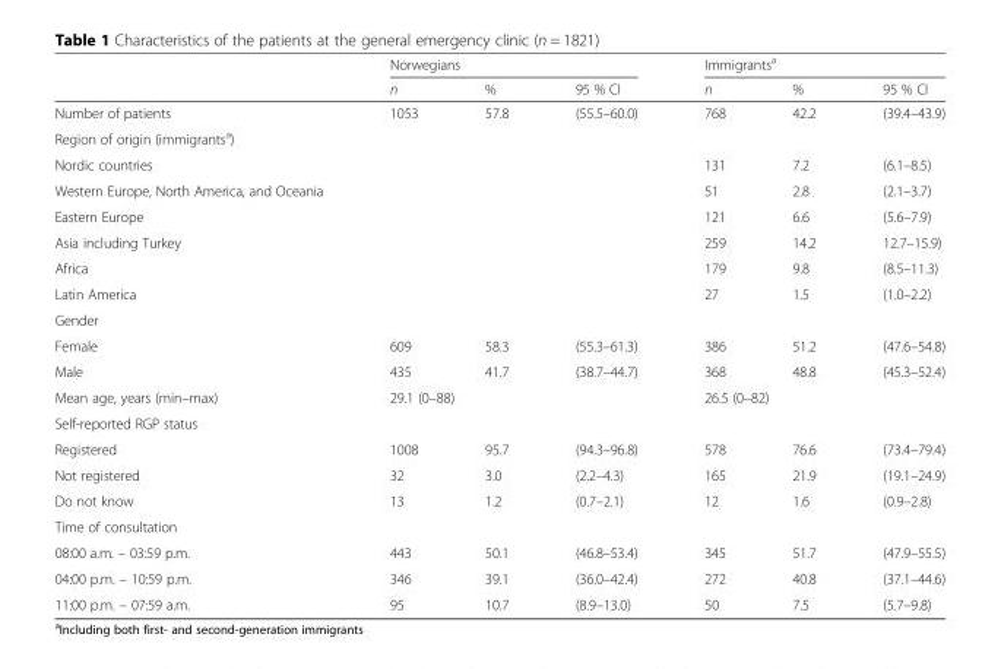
<table><thead><tr><td rowspan="2"></td><td colspan="3">Norwegians</td><td colspan="3">Immigrants<sup>a</sup></td></tr><tr><td>n</td><td>%</td><td>95 % CI</td><td>n</td><td>%</td><td>95 % CI</td></tr></thead><tbody><tr><td>Number of patients</td><td>1053</td><td>57.8</td><td>(55.5–60.0)</td><td>768</td><td>42.2</td><td>(39.4–43.9)</td></tr><tr><td colspan="7">Region of origin (immigrants<sup>a</sup>)</td></tr><tr><td>Nordic countries</td><td></td><td></td><td></td><td>131</td><td>7.2</td><td>(6.1–8.5)</td></tr><tr><td>Western Europe, North America, and Oceania</td><td></td><td></td><td></td><td>51</td><td>2.8</td><td>(2.1–3.7)</td></tr><tr><td>Eastern Europe</td><td></td><td></td><td></td><td>121</td><td>6.6</td><td>(5.6–7.9)</td></tr><tr><td>Asia including Turkey</td><td></td><td></td><td></td><td>259</td><td>14.2</td><td>12.7–15.9)</td></tr><tr><td>Africa</td><td></td><td></td><td></td><td>179</td><td>9.8</td><td>(8.5–11.3)</td></tr><tr><td>Latin America</td><td></td><td></td><td></td><td>27</td><td>1.5</td><td>(1.0–2.2)</td></tr><tr><td colspan="7">Gender</td></tr><tr><td>Female</td><td>609</td><td>58.3</td><td>(55.3–61.3)</td><td>386</td><td>51.2</td><td>(47.6–54.8)</td></tr><tr><td>Male</td><td>435</td><td>41.7</td><td>(38.7–44.7)</td><td>368</td><td>48.8</td><td>(45.3–52.4)</td></tr><tr><td>Mean age, years (min–max)</td><td colspan="3">29.1 (0–88)</td><td colspan="3">26.5 (0–82)</td></tr><tr><td colspan="7">Self-reported RGP status</td></tr><tr><td>Registered</td><td>1008</td><td>95.7</td><td>(94.3–96.8)</td><td>578</td><td>76.6</td><td>(73.4–79.4)</td></tr><tr><td>Not registered</td><td>32</td><td>3.0</td><td>(2.2–4.3)</td><td>165</td><td>21.9</td><td>(19.1–24.9)</td></tr><tr><td>Do not know</td><td>13</td><td>1.2</td><td>(0.7–2.1)</td><td>12</td><td>1.6</td><td>(0.9–2.8)</td></tr><tr><td colspan="7">Time of consultation</td></tr><tr><td>08:00 a.m. – 03:59 p.m.</td><td>443</td><td>50.1</td><td>(46.8–53.4)</td><td>345</td><td>51.7</td><td>(47.9–55.5)</td></tr><tr><td>04:00 p.m. – 10:59 p.m.</td><td>346</td><td>39.1</td><td>(36.0–42.4)</td><td>272</td><td>40.8</td><td>(37.1–44.6)</td></tr><tr><td>11:00 p.m. – 07:59 a.m.</td><td>95</td><td>10.7</td><td>(8.9–13.0)</td><td>50</td><td>7.5</td><td>(5.7–9.8)</td></tr></tbody></table>